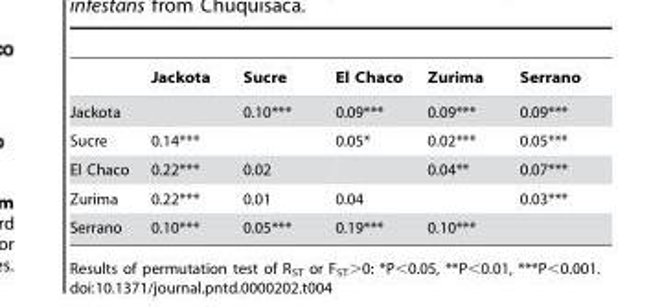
<table><thead><tr><td></td><td>Jackota</td><td>Sucre</td><td>El Chaco</td><td>Zurima</td><td>Serrano</td></tr></thead><tbody><tr><td>Jackota</td><td></td><td>0.10***</td><td>0.09***</td><td>0.09***</td><td>0.09***</td></tr><tr><td>Sucre</td><td>0.14***</td><td></td><td>0.05*</td><td>0.02***</td><td>0.05***</td></tr><tr><td>El Chaco</td><td>0.22***</td><td>0.02</td><td></td><td>0.04**</td><td>0.07***</td></tr><tr><td>Zurima</td><td>0.22***</td><td>0.01</td><td>0.04</td><td></td><td>0.03***</td></tr><tr><td>Serrano</td><td>0.10***</td><td>0.05***</td><td>0.19***</td><td>0.10***</td><td></td></tr></tbody></table>